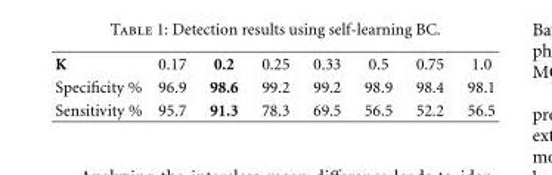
<table><tbody><tr><td>K</td><td>0.17</td><td>0.2</td><td>0.25</td><td>0.33</td><td>0.5</td><td>0.75</td><td>1.0</td></tr><tr><td>Specificity %</td><td>96.9</td><td>98.6</td><td>99.2</td><td>99.2</td><td>98.9</td><td>98.4</td><td>98.1</td></tr><tr><td>Sensitivity %</td><td>95.7</td><td>91.3</td><td>78.3</td><td>69.5</td><td>56.5</td><td>52.2</td><td>56.5</td></tr></tbody></table>